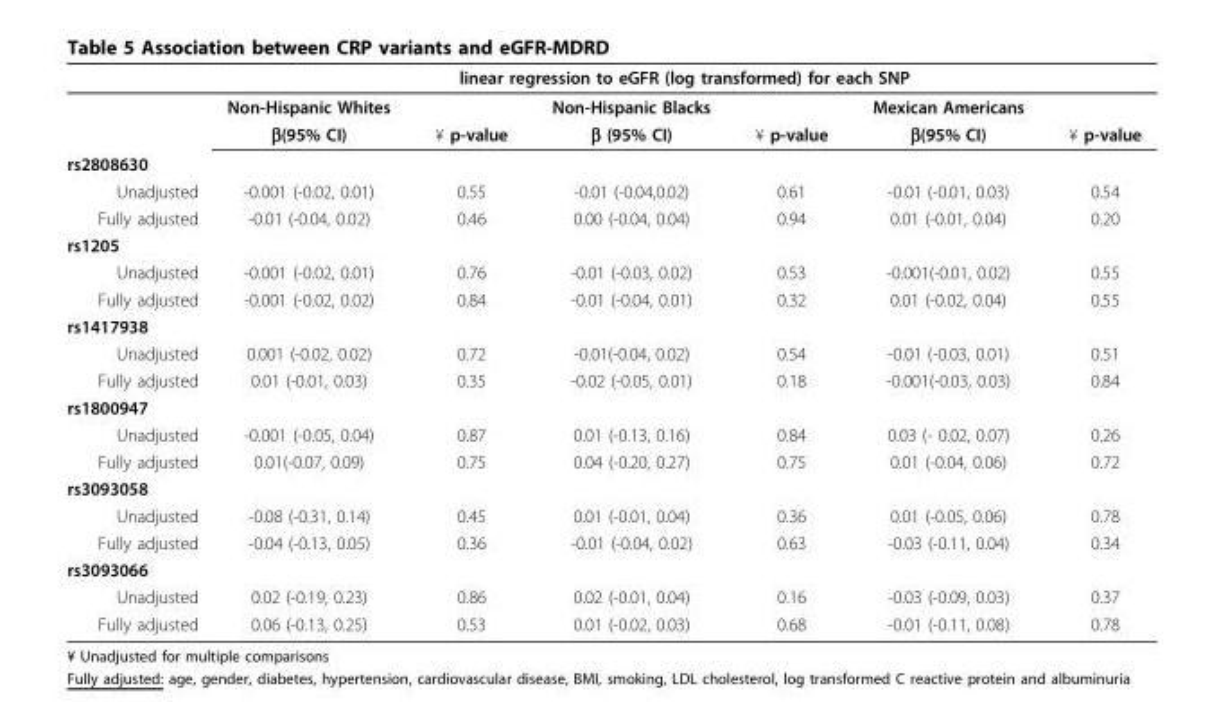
<table><thead><tr><td rowspan="2"></td><td colspan="6">linear regression to eGFR (log transformed) for each SNP</td></tr><tr><td>Non-Hispanic Whites</td><td></td><td>Non-Hispanic Blacks</td><td></td><td>Mexican Americans</td><td></td></tr></thead><tbody><tr><td></td><td>β(95% CI)</td><td>¥ p-value</td><td>β (95% CI)</td><td>¥ p-value</td><td>β(95% CI)</td><td>¥ p-value</td></tr><tr><td colspan="7">rs2808630</td></tr><tr><td>Unadjusted</td><td>-0.001 (-0.02, 0.01)</td><td>0.55</td><td>-0.01 (-0.04,0.02)</td><td>0.61</td><td>-0.01 (-0.01, 0.03)</td><td>0.54</td></tr><tr><td>Fully adjusted</td><td>-0.01 (-0.04, 0.02)</td><td>0.46</td><td>0.00 (-0.04, 0.04)</td><td>0.94</td><td>0.01 (-0.01, 0.04)</td><td>0.20</td></tr><tr><td colspan="7">rs1205</td></tr><tr><td>Unadjusted</td><td>-0.001 (-0.02, 0.01)</td><td>0.76</td><td>-0.01 (-0.03, 0.02)</td><td>0.53</td><td>-0.001(-0.01, 0.02)</td><td>0.55</td></tr><tr><td>Fully adjusted</td><td>-0.001 (-0.02, 0.02)</td><td>0.84</td><td>-0.01 (-0.04, 0.01)</td><td>0.32</td><td>0.01 (-0.02, 0.04)</td><td>0.55</td></tr><tr><td colspan="7">rs1417938</td></tr><tr><td>Unadjusted</td><td>0.001 (-0.02, 0.02)</td><td>0.72</td><td>-0.01(-0.04, 0.02)</td><td>0.54</td><td>-0.01 (-0.03, 0.01)</td><td>0.51</td></tr><tr><td>Fully adjusted</td><td>0.01 (-0.01, 0.03)</td><td>0.35</td><td>-0.02 (-0.05, 0.01)</td><td>0.18</td><td>-0.001(-0.03, 0.03)</td><td>0.84</td></tr><tr><td colspan="7">rs1800947</td></tr><tr><td>Unadjusted</td><td>-0.001 (-0.05, 0.04)</td><td>0.87</td><td>0.01 (-0.13, 0.16)</td><td>0.84</td><td>0.03 (- 0.02, 0.07)</td><td>0.26</td></tr><tr><td>Fully adjusted</td><td>0.01(-0.07, 0.09)</td><td>0.75</td><td>0.04 (-0.20, 0.27)</td><td>0.75</td><td>0.01 (-0.04, 0.06)</td><td>0.72</td></tr><tr><td colspan="7">rs3093058</td></tr><tr><td>Unadjusted</td><td>-0.08 (-0.31, 0.14)</td><td>0.45</td><td>0.01 (-0.01, 0.04)</td><td>0.36</td><td>0.01 (-0.05, 0.06)</td><td>0.78</td></tr><tr><td>Fully adjusted</td><td>-0.04 (-0.13, 0.05)</td><td>0.36</td><td>-0.01 (-0.04, 0.02)</td><td>0.63</td><td>-0.03 (-0.11, 0.04)</td><td>0.34</td></tr><tr><td colspan="7">rs3093066</td></tr><tr><td>Unadjusted</td><td>0.02 (-0.19, 0.23)</td><td>0.86</td><td>0.02 (-0.01, 0.04)</td><td>0.16</td><td>-0.03 (-0.09, 0.03)</td><td>0.37</td></tr><tr><td>Fully adjusted</td><td>0.06 (-0.13, 0.25)</td><td>0.53</td><td>0.01 (-0.02, 0.03)</td><td>0.68</td><td>-0.01 (-0.11, 0.08)</td><td>0.78</td></tr></tbody></table>